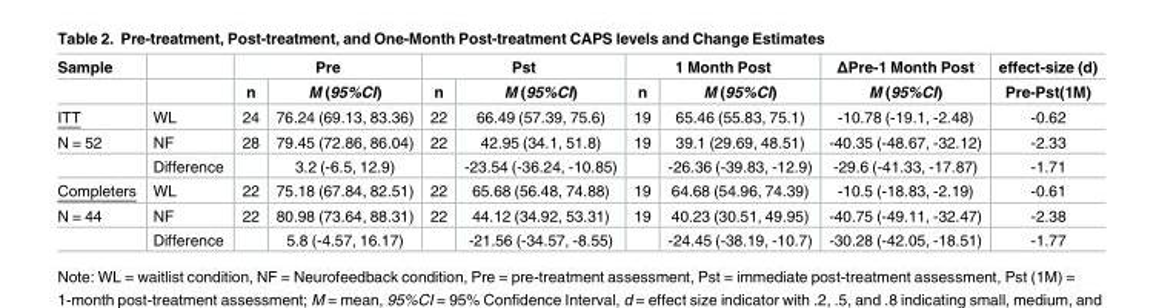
<table><thead><tr><td rowspan="2">Sample</td><td rowspan="2"></td><td colspan="2">Pre</td><td colspan="2">Pst</td><td colspan="2">1 Month Post</td><td rowspan="2">ΔPre-1 Month Post M (95%CI)</td><td rowspan="2">effect-size (d) Pre-Pst(1M)</td></tr><tr><td>n</td><td>M (95%CI)</td><td>n</td><td>M (95%CI)</td><td>n</td><td>M (95%CI)</td></tr></thead><tbody><tr><td>ITT</td><td>WL</td><td>24</td><td>76.24 (69.13, 83.36)</td><td>22</td><td>66.49 (57.39, 75.6)</td><td>19</td><td>65.46 (55.83, 75.1)</td><td>-10.78 (-19.1, -2.48)</td><td>-0.62</td></tr><tr><td rowspan="2">N = 52</td><td>NF</td><td>28</td><td>79.45 (72.86, 86.04)</td><td>22</td><td>42.95 (34.1, 51.8)</td><td>19</td><td>39.1 (29.69, 48.51)</td><td>-40.35 (-48.67, -32.12)</td><td>-2.33</td></tr><tr><td>Difference</td><td></td><td>3.2 (-6.5, 12.9)</td><td></td><td>-23.54 (-36.24, -10.85)</td><td></td><td>-26.36 (-39.83, -12.9)</td><td>-29.6 (-41.33, -17.87)</td><td>-1.71</td></tr><tr><td>Completers</td><td>WL</td><td>22</td><td>75.18 (67.84, 82.51)</td><td>22</td><td>65.68 (56.48, 74.88)</td><td>19</td><td>64.68 (54.96, 74.39)</td><td>-10.5 (-18.83, -2.19)</td><td>-0.61</td></tr><tr><td rowspan="2">N = 44</td><td>NF</td><td>22</td><td>80.98 (73.64, 88.31)</td><td>22</td><td>44.12 (34.92, 53.31)</td><td>19</td><td>40.23 (30.51, 49.95)</td><td>-40.75 (-49.11, -32.47)</td><td>-2.38</td></tr><tr><td>Difference</td><td></td><td>5.8 (-4.57, 16.17)</td><td></td><td>-21.56 (-34.57, -8.55)</td><td></td><td>-24.45 (-38.19, -10.7)</td><td>-30.28 (-42.05, -18.51)</td><td>-1.77</td></tr></tbody></table>